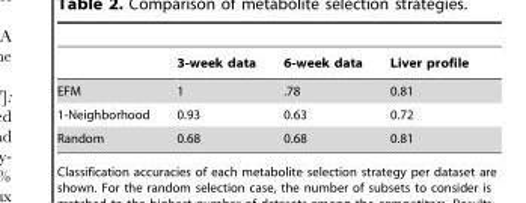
<table><thead><tr><td></td><td>3-week data</td><td>6-week data</td><td>Liver profile</td></tr></thead><tbody><tr><td>EFM</td><td>1</td><td>.78</td><td>0.81</td></tr><tr><td>1-Neighborhood</td><td>0.93</td><td>0.63</td><td>0.72</td></tr><tr><td>Random</td><td>0.68</td><td>0.68</td><td>0.81</td></tr></tbody></table>